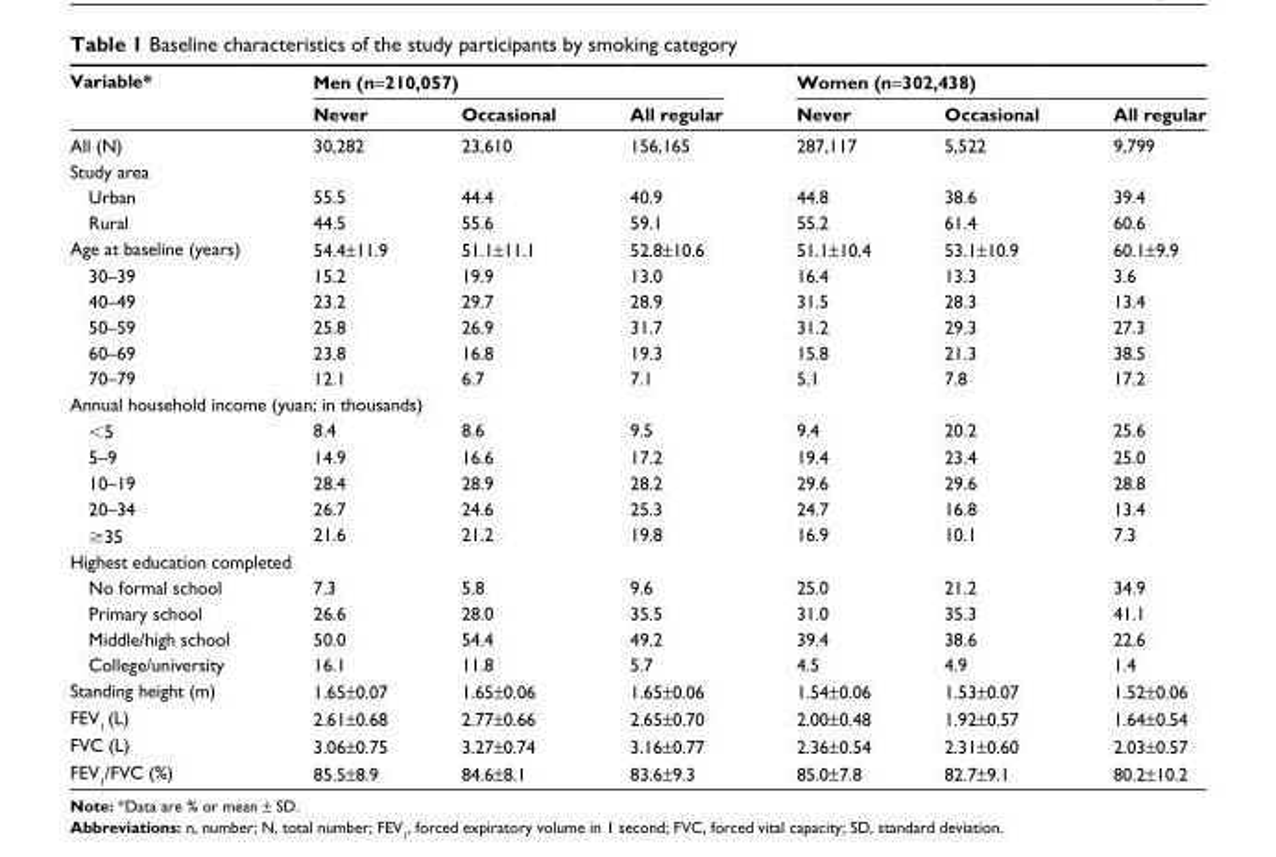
<table><thead><tr><td rowspan="2">Variable*</td><td colspan="3">Men (n=210,057)</td><td colspan="3">Women (n=302,438)</td></tr><tr><td>Never</td><td>Occasional</td><td>All regular</td><td>Never</td><td>Occasional</td><td>All regular</td></tr></thead><tbody><tr><td>all (n)</td><td>30,282</td><td>23,610</td><td>156,165</td><td>287,117</td><td>5,522</td><td>9,799</td></tr><tr><td colspan="7">study area</td></tr><tr><td>Urban</td><td>55.5</td><td>44.4</td><td>40.9</td><td>44.8</td><td>38.6</td><td>39.4</td></tr><tr><td>rural</td><td>44.5</td><td>55.6</td><td>59.1</td><td>55.2</td><td>61.4</td><td>60.6</td></tr><tr><td>age at baseline (years)</td><td>54.4±11.9</td><td>51.1±11.1</td><td>52.8±10.6</td><td>51.1±10.4</td><td>53.1±10.9</td><td>60.1±9.9</td></tr><tr><td>30–39</td><td>15.2</td><td>19.9</td><td>13.0</td><td>16.4</td><td>13.3</td><td>3.6</td></tr><tr><td>40–49</td><td>23.2</td><td>29.7</td><td>28.9</td><td>31.5</td><td>28.3</td><td>13.4</td></tr><tr><td>50–59</td><td>25.8</td><td>26.9</td><td>31.7</td><td>31.2</td><td>29.3</td><td>27.3</td></tr><tr><td>60–69</td><td>23.8</td><td>16.8</td><td>19.3</td><td>15.8</td><td>21.3</td><td>38.5</td></tr><tr><td>70–79</td><td>12.1</td><td>6.7</td><td>7.1</td><td>5.1</td><td>7.8</td><td>17.2</td></tr><tr><td colspan="7">Annual household income (yuan; in thousands)</td></tr><tr><td>&lt;5</td><td>8.4</td><td>8.6</td><td>9.5</td><td>9.4</td><td>20.2</td><td>25.6</td></tr><tr><td>5–9</td><td>14.9</td><td>16.6</td><td>17.2</td><td>19.4</td><td>23.4</td><td>25.0</td></tr><tr><td>10–19</td><td>28.4</td><td>28.9</td><td>28.2</td><td>29.6</td><td>29.6</td><td>28.8</td></tr><tr><td>20–34</td><td>26.7</td><td>24.6</td><td>25.3</td><td>24.7</td><td>16.8</td><td>13.4</td></tr><tr><td>≥35</td><td>21.6</td><td>21.2</td><td>19.8</td><td>16.9</td><td>10.1</td><td>7.3</td></tr><tr><td colspan="7">highest education completed</td></tr><tr><td>no formal school</td><td>7.3</td><td>5.8</td><td>9.6</td><td>25.0</td><td>21.2</td><td>34.9</td></tr><tr><td>Primary school</td><td>26.6</td><td>28.0</td><td>35.5</td><td>31.0</td><td>35.3</td><td>41.1</td></tr><tr><td>Middle/high school</td><td>50.0</td><td>54.4</td><td>49.2</td><td>39.4</td><td>38.6</td><td>22.6</td></tr><tr><td>College/university</td><td>16.1</td><td>11.8</td><td>5.7</td><td>4.5</td><td>4.9</td><td>1.4</td></tr><tr><td>standing height (m)</td><td>1.65±0.07</td><td>1.65±0.06</td><td>1.65±0.06</td><td>1.54±0.06</td><td>1.53±0.07</td><td>1.52±0.06</td></tr><tr><td>FeV<sub>1</sub> (l)</td><td>2.61±0.68</td><td>2.77±0.66</td><td>2.65±0.70</td><td>2.00±0.48</td><td>1.92±0.57</td><td>1.64±0.54</td></tr><tr><td>FVC (l)</td><td>3.06±0.75</td><td>3.27±0.74</td><td>3.16±0.77</td><td>2.36±0.54</td><td>2.31±0.60</td><td>2.03±0.57</td></tr><tr><td>FeV<sub>1</sub>/FVC (%)</td><td>85.5±8.9</td><td>84.6±8.1</td><td>83.6±9.3</td><td>85.0±7.8</td><td>82.7±9.1</td><td>80.2±10.2</td></tr></tbody></table>